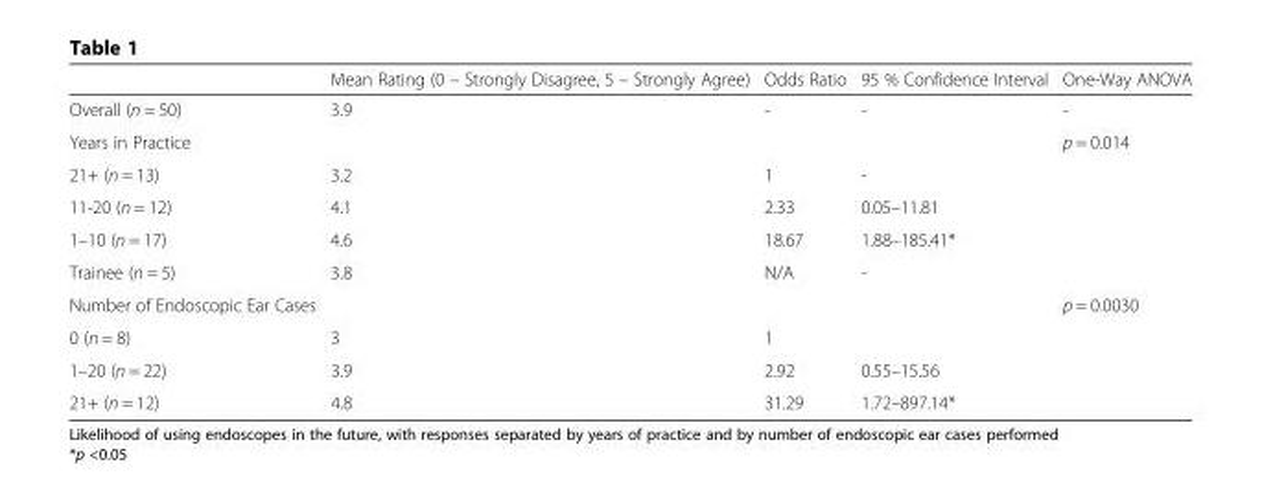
<table><thead><tr><td></td><td>Mean Rating (0 – Strongly Disagree, 5 – Strongly Agree)</td><td>Odds Ratio</td><td>95 % Confidence Interval</td><td>One-Way ANOVA</td></tr></thead><tbody><tr><td>Overall (n = 50)</td><td>3.9</td><td>-</td><td>-</td><td>-</td></tr><tr><td>Years in Practice</td><td></td><td></td><td></td><td>p = 0.014</td></tr><tr><td>21+ (n = 13)</td><td>3.2</td><td>1</td><td>-</td><td></td></tr><tr><td>11-20 (n = 12)</td><td>4.1</td><td>2.33</td><td>0.05–11.81</td><td></td></tr><tr><td>1–10 (n = 17)</td><td>4.6</td><td>18.67</td><td>1.88–185.41*</td><td></td></tr><tr><td>Trainee (n = 5)</td><td>3.8</td><td>N/A</td><td>-</td><td></td></tr><tr><td>Number of Endoscopic Ear Cases</td><td></td><td></td><td></td><td>p = 0.0030</td></tr><tr><td>0 (n = 8)</td><td>3</td><td>1</td><td></td><td></td></tr><tr><td>1–20 (n = 22)</td><td>3.9</td><td>2.92</td><td>0.55–15.56</td><td></td></tr><tr><td>21+ (n = 12)</td><td>4.8</td><td>31.29</td><td>1.72–897.14*</td><td></td></tr></tbody></table>